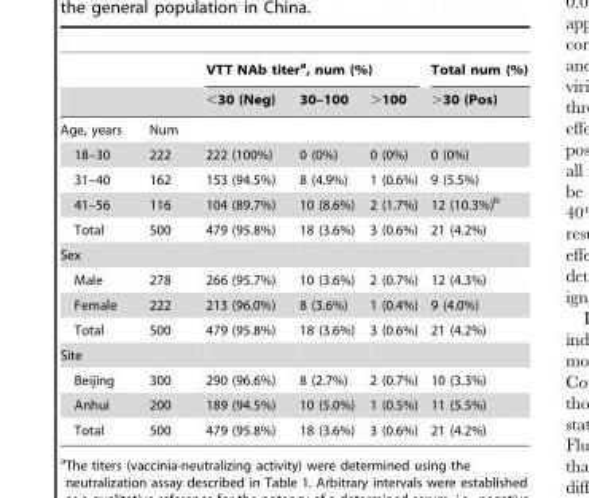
<table><thead><tr><td rowspan="2"></td><td rowspan="2"></td><td colspan="3">VTT NAb titer<sup>a</sup>, num (%)</td><td rowspan="2">Total num (%) &gt;30 (Pos)</td></tr><tr><td>&lt;30 (Neg)</td><td>30–100</td><td>&gt;100</td></tr></thead><tbody><tr><td>Age, years</td><td>Num</td><td></td><td></td><td></td><td></td></tr><tr><td>18–30</td><td>222</td><td>222 (100%)</td><td>0 (0%)</td><td>0 (0%)</td><td>0 (0%)</td></tr><tr><td>31–40</td><td>162</td><td>153 (94.5%)</td><td>8 (4.9%)</td><td>1 (0.6%)</td><td>9 (5.5%)</td></tr><tr><td>41–56</td><td>116</td><td>104 (89.7%)</td><td>10 (8.6%)</td><td>2 (1.7%)</td><td>12 (10.3%)<sup>b</sup></td></tr><tr><td>Total</td><td>500</td><td>479 (95.8%)</td><td>18 (3.6%)</td><td>3 (0.6%)</td><td>21 (4.2%)</td></tr><tr><td colspan="6">Sex</td></tr><tr><td>Male</td><td>278</td><td>266 (95.7%)</td><td>10 (3.6%)</td><td>2 (0.7%)</td><td>12 (4.3%)</td></tr><tr><td>Female</td><td>222</td><td>213 (96.0%)</td><td>8 (3.6%)</td><td>1 (0.4%)</td><td>9 (4.0%)</td></tr><tr><td>Total</td><td>500</td><td>479 (95.8%)</td><td>18 (3.6%)</td><td>3 (0.6%)</td><td>21 (4.2%)</td></tr><tr><td colspan="6">Site</td></tr><tr><td>Beijing</td><td>300</td><td>290 (96.6%)</td><td>8 (2.7%)</td><td>2 (0.7%)</td><td>10 (3.3%)</td></tr><tr><td>Anhui</td><td>200</td><td>189 (94.5%)</td><td>10 (5.0%)</td><td>1 (0.5%)</td><td>11 (5.5%)</td></tr><tr><td>Total</td><td>500</td><td>479 (95.8%)</td><td>18 (3.6%)</td><td>3 (0.6%)</td><td>21 (4.2%)</td></tr></tbody></table>